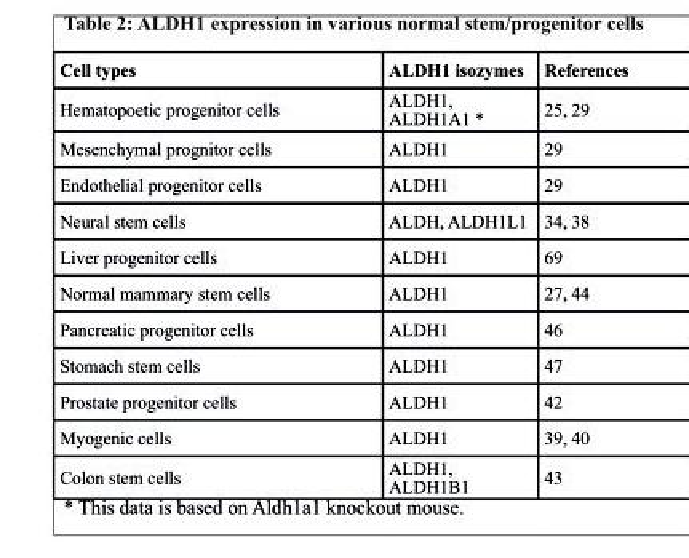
<table><thead><tr><td>cell types</td><td>Aldh1 isozymes</td><td>references</td></tr></thead><tbody><tr><td>Hematopoetic progenitor cells</td><td>ALDH1, ALDH1A1 *</td><td>25, 29</td></tr><tr><td>Mesenchymal prognitor cells</td><td>ALDH1</td><td>29</td></tr><tr><td>Endothelial progenitor cells</td><td>ALDH1</td><td>29</td></tr><tr><td>Neural stem cells</td><td>ALDH, ALDH1L1</td><td>34, 38</td></tr><tr><td>Liver progenitor cells</td><td>ALDH1</td><td>69</td></tr><tr><td>Normal mammary stem cells</td><td>ALDH1</td><td>27, 44</td></tr><tr><td>Pancreatic progenitor cells</td><td>ALDH1</td><td>46</td></tr><tr><td>Stomach stem cells</td><td>ALDH1</td><td>47</td></tr><tr><td>Prostate progenitor cells</td><td>ALDH1</td><td>42</td></tr><tr><td>Myogenic cells</td><td>ALDH1</td><td>39, 40</td></tr><tr><td>Colon stem cells</td><td>ALDH1, ALDH1B1</td><td>43</td></tr></tbody></table>